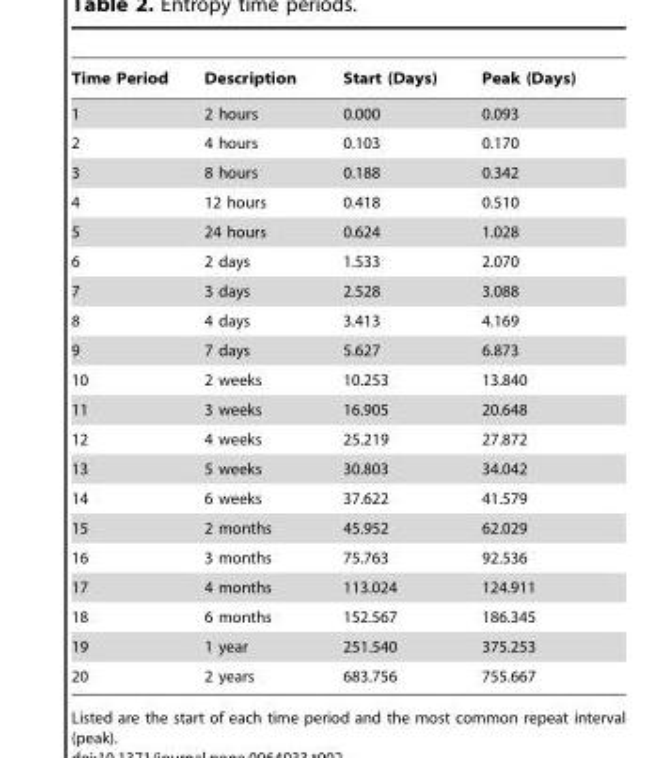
<table><thead><tr><td>Time Period</td><td>Description</td><td>Start (Days)</td><td>Peak (Days)</td></tr></thead><tbody><tr><td>1</td><td>2 hours</td><td>0.000</td><td>0.093</td></tr><tr><td>2</td><td>4 hours</td><td>0.103</td><td>0.170</td></tr><tr><td>3</td><td>8 hours</td><td>0.188</td><td>0.342</td></tr><tr><td>4</td><td>12 hours</td><td>0.418</td><td>0.510</td></tr><tr><td>5</td><td>24 hours</td><td>0.624</td><td>1.028</td></tr><tr><td>6</td><td>2 days</td><td>1.533</td><td>2.070</td></tr><tr><td>7</td><td>3 days</td><td>2.528</td><td>3.088</td></tr><tr><td>8</td><td>4 days</td><td>3.413</td><td>4.169</td></tr><tr><td>9</td><td>7 days</td><td>5.627</td><td>6.873</td></tr><tr><td>10</td><td>2 weeks</td><td>10.253</td><td>13.840</td></tr><tr><td>11</td><td>3 weeks</td><td>16.905</td><td>20.648</td></tr><tr><td>12</td><td>4 weeks</td><td>25.219</td><td>27.872</td></tr><tr><td>13</td><td>5 weeks</td><td>30.803</td><td>34.042</td></tr><tr><td>14</td><td>6 weeks</td><td>37.622</td><td>41.579</td></tr><tr><td>15</td><td>2 months</td><td>45.952</td><td>62.029</td></tr><tr><td>16</td><td>3 months</td><td>75.763</td><td>92.536</td></tr><tr><td>17</td><td>4 months</td><td>113.024</td><td>124.911</td></tr><tr><td>18</td><td>6 months</td><td>152.567</td><td>186.345</td></tr><tr><td>19</td><td>1 year</td><td>251.540</td><td>375.253</td></tr><tr><td>20</td><td>2 years</td><td>683.756</td><td>755.667</td></tr></tbody></table>